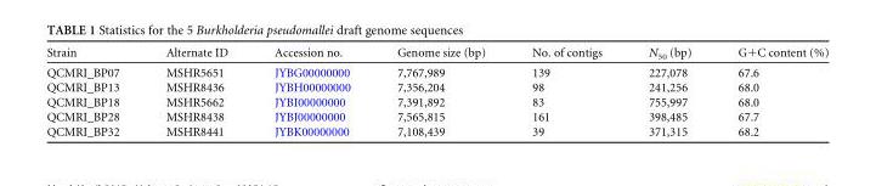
<table><thead><tr><td>Strain</td><td>Alternate ID</td><td>Accession no.</td><td>Genome size (bp)</td><td>No. of contigs</td><td>N<sub>50</sub> (bp)</td><td>G+C content (%)</td></tr></thead><tbody><tr><td>QCMRI_BP07</td><td>MSHR5651</td><td>JYBG00000000</td><td>7,767,989</td><td>139</td><td>227,078</td><td>67.6</td></tr><tr><td>QCMRI_BP13</td><td>MSHR8436</td><td>JYBH00000000</td><td>7,356,204</td><td>98</td><td>241,256</td><td>68.0</td></tr><tr><td>QCMRI_BP18</td><td>MSHR5662</td><td>JYBI00000000</td><td>7,391,892</td><td>83</td><td>755,997</td><td>68.0</td></tr><tr><td>QCMRI_BP28</td><td>MSHR8438</td><td>JYBJ00000000</td><td>7,565,815</td><td>161</td><td>398,485</td><td>67.7</td></tr><tr><td>QCMRI_BP32</td><td>MSHR8441</td><td>JYBK00000000</td><td>7,108,439</td><td>39</td><td>371,315</td><td>68.2</td></tr></tbody></table>